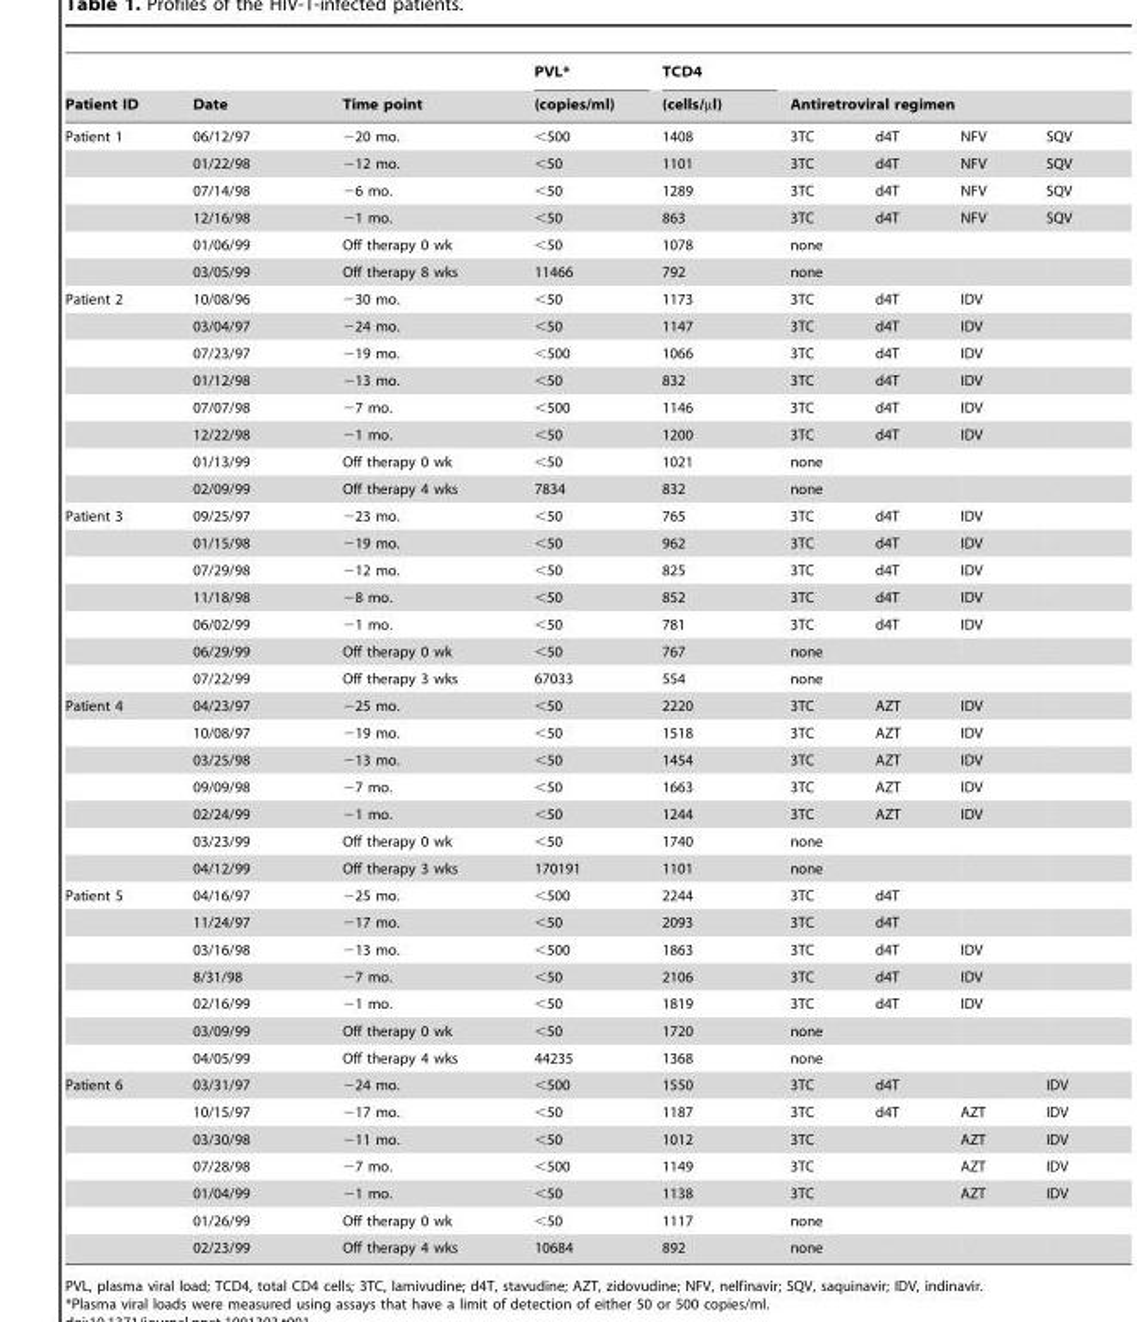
<table><thead><tr><td rowspan="2">Patient ID</td><td rowspan="2">Date</td><td rowspan="2">Time point</td><td rowspan="2">PVL* (copies/ml)</td><td rowspan="2">TCD4 (cells/µl)</td><td></td><td></td><td></td><td></td></tr><tr><td colspan="4">Antiretroviral regimen</td></tr></thead><tbody><tr><td rowspan="6">Patient 1</td><td>06/12/97</td><td>−20 mo.</td><td>&lt;500</td><td>1408</td><td>3TC</td><td>d4T</td><td>NFV</td><td>SQV</td></tr><tr><td>01/22/98</td><td>−12 mo.</td><td>&lt;50</td><td>1101</td><td>3TC</td><td>d4T</td><td>NFV</td><td>SQV</td></tr><tr><td>07/14/98</td><td>−6 mo.</td><td>&lt;50</td><td>1289</td><td>3TC</td><td>d4T</td><td>NFV</td><td>SQV</td></tr><tr><td>12/16/98</td><td>−1 mo.</td><td>&lt;50</td><td>863</td><td>3TC</td><td>d4T</td><td>NFV</td><td>SQV</td></tr><tr><td>01/06/99</td><td>Off therapy 0 wk</td><td>&lt;50</td><td>1078</td><td>none</td><td></td><td></td><td></td></tr><tr><td>03/05/99</td><td>Off therapy 8 wks</td><td>11466</td><td>792</td><td>none</td><td></td><td></td><td></td></tr><tr><td rowspan="8">Patient 2</td><td>10/08/96</td><td>−30 mo.</td><td>&lt;50</td><td>1173</td><td>3TC</td><td>d4T</td><td>IDV</td><td></td></tr><tr><td>03/04/97</td><td>−24 mo.</td><td>&lt;50</td><td>1147</td><td>3TC</td><td>d4T</td><td>IDV</td><td></td></tr><tr><td>07/23/97</td><td>−19 mo.</td><td>&lt;500</td><td>1066</td><td>3TC</td><td>d4T</td><td>IDV</td><td></td></tr><tr><td>01/12/98</td><td>−13 mo.</td><td>&lt;50</td><td>832</td><td>3TC</td><td>d4T</td><td>IDV</td><td></td></tr><tr><td>07/07/98</td><td>−7 mo.</td><td>&lt;500</td><td>1146</td><td>3TC</td><td>d4T</td><td>IDV</td><td></td></tr><tr><td>12/22/98</td><td>−1 mo.</td><td>&lt;50</td><td>1200</td><td>3TC</td><td>d4T</td><td>IDV</td><td></td></tr><tr><td>01/13/99</td><td>Off therapy 0 wk</td><td>&lt;50</td><td>1021</td><td>none</td><td></td><td></td><td></td></tr><tr><td>02/09/99</td><td>Off therapy 4 wks</td><td>7834</td><td>832</td><td>none</td><td></td><td></td><td></td></tr><tr><td rowspan="7">Patient 3</td><td>09/25/97</td><td>−23 mo.</td><td>&lt;50</td><td>765</td><td>3TC</td><td>d4T</td><td>IDV</td><td></td></tr><tr><td>01/15/98</td><td>−19 mo.</td><td>&lt;50</td><td>962</td><td>3TC</td><td>d4T</td><td>IDV</td><td></td></tr><tr><td>07/29/98</td><td>−12 mo.</td><td>&lt;50</td><td>825</td><td>3TC</td><td>d4T</td><td>IDV</td><td></td></tr><tr><td>11/18/98</td><td>−8 mo.</td><td>&lt;50</td><td>852</td><td>3TC</td><td>d4T</td><td>IDV</td><td></td></tr><tr><td>06/02/99</td><td>−1 mo.</td><td>&lt;50</td><td>781</td><td>3TC</td><td>d4T</td><td>IDV</td><td></td></tr><tr><td>06/29/99</td><td>Off therapy 0 wk</td><td>&lt;50</td><td>767</td><td>none</td><td></td><td></td><td></td></tr><tr><td>07/22/99</td><td>Off therapy 3 wks</td><td>67033</td><td>554</td><td>none</td><td></td><td></td><td></td></tr><tr><td rowspan="7">Patient 4</td><td>04/23/97</td><td>−25 mo.</td><td>&lt;50</td><td>2220</td><td>3TC</td><td>AZT</td><td>IDV</td><td></td></tr><tr><td>10/08/97</td><td>−19 mo.</td><td>&lt;50</td><td>1518</td><td>3TC</td><td>AZT</td><td>IDV</td><td></td></tr><tr><td>03/25/98</td><td>−13 mo.</td><td>&lt;50</td><td>1454</td><td>3TC</td><td>AZT</td><td>IDV</td><td></td></tr><tr><td>09/09/98</td><td>−7 mo.</td><td>&lt;50</td><td>1663</td><td>3TC</td><td>AZT</td><td>IDV</td><td></td></tr><tr><td>02/24/99</td><td>−1 mo.</td><td>&lt;50</td><td>1244</td><td>3TC</td><td>AZT</td><td>IDV</td><td></td></tr><tr><td>03/23/99</td><td>Off therapy 0 wk</td><td>&lt;50</td><td>1740</td><td>none</td><td></td><td></td><td></td></tr><tr><td>04/12/99</td><td>Off therapy 3 wks</td><td>170191</td><td>1101</td><td>none</td><td></td><td></td><td></td></tr><tr><td rowspan="7">Patient 5</td><td>04/16/97</td><td>−25 mo.</td><td>&lt;500</td><td>2244</td><td>3TC</td><td>d4T</td><td></td><td></td></tr><tr><td>11/24/97</td><td>−17 mo.</td><td>&lt;50</td><td>2093</td><td>3TC</td><td>d4T</td><td></td><td></td></tr><tr><td>03/16/98</td><td>−13 mo.</td><td>&lt;500</td><td>1863</td><td>3TC</td><td>d4T</td><td>IDV</td><td></td></tr><tr><td>8/31/98</td><td>−7 mo.</td><td>&lt;50</td><td>2106</td><td>3TC</td><td>d4T</td><td>IDV</td><td></td></tr><tr><td>02/16/99</td><td>−1 mo.</td><td>&lt;50</td><td>1819</td><td>3TC</td><td>d4T</td><td>IDV</td><td></td></tr><tr><td>03/09/99</td><td>Off therapy 0 wk</td><td>&lt;50</td><td>1720</td><td>none</td><td></td><td></td><td></td></tr><tr><td>04/05/99</td><td>Off therapy 4 wks</td><td>44235</td><td>1368</td><td>none</td><td></td><td></td><td></td></tr><tr><td rowspan="7">Patient 6</td><td>03/31/97</td><td>−24 mo.</td><td>&lt;500</td><td>1550</td><td>3TC</td><td>d4T</td><td></td><td>IDV</td></tr><tr><td>10/15/97</td><td>−17 mo.</td><td>&lt;50</td><td>1187</td><td>3TC</td><td>d4T</td><td>AZT</td><td>IDV</td></tr><tr><td>03/30/98</td><td>−11 mo.</td><td>&lt;50</td><td>1012</td><td>3TC</td><td></td><td>AZT</td><td>IDV</td></tr><tr><td>07/28/98</td><td>−7 mo.</td><td>&lt;500</td><td>1149</td><td>3TC</td><td></td><td>AZT</td><td>IDV</td></tr><tr><td>01/04/99</td><td>−1 mo.</td><td>&lt;50</td><td>1138</td><td>3TC</td><td></td><td>AZT</td><td>IDV</td></tr><tr><td>01/26/99</td><td>Off therapy 0 wk</td><td>&lt;50</td><td>1117</td><td>none</td><td></td><td></td><td></td></tr><tr><td>02/23/99</td><td>Off therapy 4 wks</td><td>10684</td><td>892</td><td>none</td><td></td><td></td><td></td></tr></tbody></table>